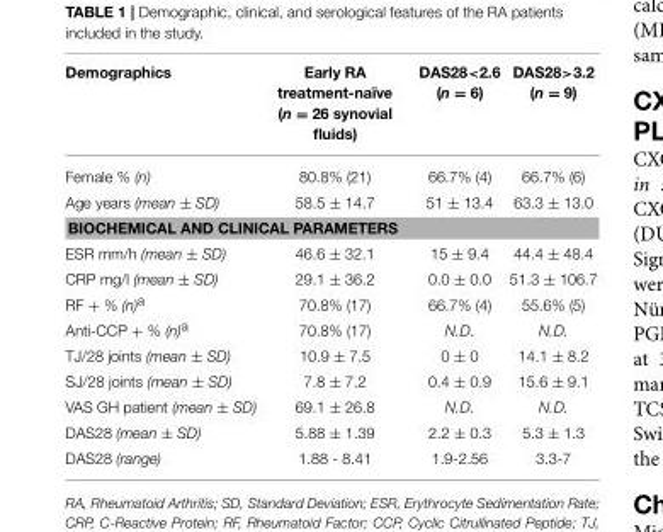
<table><thead><tr><td>Demographics</td><td>Early RA treatment-naïve (n = 26 synovial fluids)</td><td>DAS28&lt;2.6 (n = 6)</td><td>DAS28&gt;3.2 (n = 9)</td></tr></thead><tbody><tr><td>Female % (n)</td><td>80.8% (21)</td><td>66.7% (4)</td><td>66.7% (6)</td></tr><tr><td>Age years (mean ± SD)</td><td>58.5 ± 14.7</td><td>51 ± 13.4</td><td>63.3 ± 13.0</td></tr><tr><td colspan="4">BIOCHEMICAL AND CLINICAL PARAMETERS</td></tr><tr><td>ESR mm/h (mean ± SD)</td><td>46.6 ± 32.1</td><td>15 ± 9.4</td><td>44.4 ± 48.4</td></tr><tr><td>CRP mg/l (mean ± SD)</td><td>29.1 ± 36.2</td><td>0.0 ± 0.0</td><td>51.3 ± 106.7</td></tr><tr><td>RF + % (n)<sup>a</sup></td><td>70.8% (17)</td><td>66.7% (4)</td><td>55.6% (5)</td></tr><tr><td>Anti-CCP + % (n)<sup>a</sup></td><td>70.8% (17)</td><td>N.D.</td><td>N.D.</td></tr><tr><td>TJ/28 joints (mean ± SD)</td><td>10.9 ± 7.5</td><td>0 ± 0</td><td>14.1 ± 8.2</td></tr><tr><td>SJ/28 joints (mean ± SD)</td><td>7.8 ± 7.2</td><td>0.4 ± 0.9</td><td>15.6 ± 9.1</td></tr><tr><td>VAS GH patient (mean ± SD)</td><td>69.1 ± 26.8</td><td>N.D.</td><td>N.D.</td></tr><tr><td>DAS28 (mean ± SD)</td><td>5.88 ± 1.39</td><td>2.2 ± 0.3</td><td>5.3 ± 1.3</td></tr><tr><td>DAS28 (range)</td><td>1.88 - 8.41</td><td>1.9-2.56</td><td>3.3-7</td></tr></tbody></table>